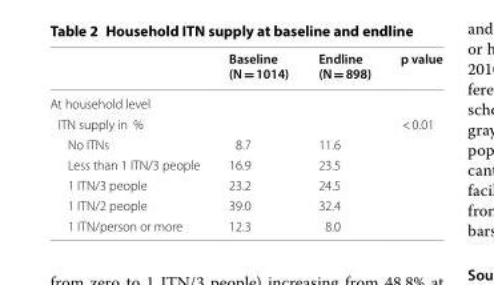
<table><thead><tr><td></td><td>Baseline (N = 1014)</td><td>Endline (N = 898)</td><td>p value</td></tr></thead><tbody><tr><td colspan="4">At household level</td></tr><tr><td>ITN supply in %</td><td></td><td></td><td>&lt; 0.01</td></tr><tr><td>No ITNs</td><td>8.7</td><td>11.6</td><td></td></tr><tr><td>Less than 1 ITN/3 people</td><td>16.9</td><td>23.5</td><td></td></tr><tr><td>1 ITN/3 people</td><td>23.2</td><td>24.5</td><td></td></tr><tr><td>1 ITN/2 people</td><td>39.0</td><td>32.4</td><td></td></tr><tr><td>1 ITN/person or more</td><td>12.3</td><td>8.0</td><td></td></tr></tbody></table>